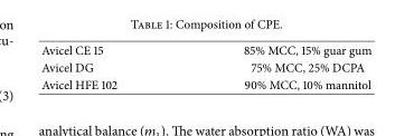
<table><tbody><tr><td>Avicel CE 15</td><td>85% MCC, 15% guar gum</td></tr><tr><td>Avicel DG</td><td>75% MCC, 25% DCPA</td></tr><tr><td>Avicel HFE 102</td><td>90% MCC, 10% mannitol</td></tr></tbody></table>